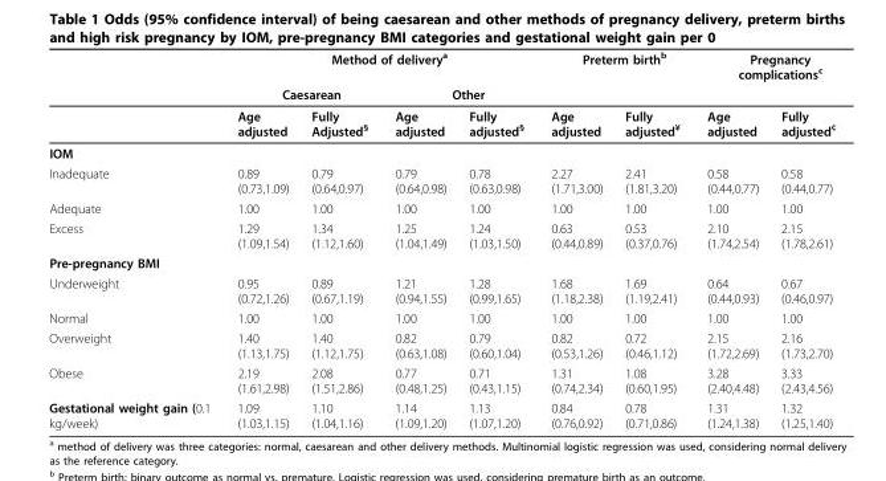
<table><thead><tr><td rowspan="3"></td><td colspan="4">Method of delivery<sup>a</sup></td><td colspan="2">Preterm birth<sup>b</sup></td><td colspan="2">Pregnancy complications<sup>c</sup></td></tr><tr><td colspan="2">Caesarean</td><td colspan="2">Other</td><td rowspan="2">Age adjusted</td><td rowspan="2">Fully adjusted<sup>¥</sup></td><td rowspan="2">Age adjusted</td><td rowspan="2">Fully adjusted<sup>¢</sup></td></tr><tr><td>Age adjusted</td><td>Fully Adjusted<sup>§</sup></td><td>Age adjusted</td><td>Fully adjusted§</td></tr></thead><tbody><tr><td colspan="9">IOM</td></tr><tr><td>Inadequate</td><td>0.89 (0.73,1.09)</td><td>0.79 (0.64,0.97)</td><td>0.79 (0.64,0.98)</td><td>0.78 (0.63,0.98)</td><td>2.27 (1.71,3.00)</td><td>2.41 (1.81,3.20)</td><td>0.58 (0.44,0.77)</td><td>0.58 (0.44,0.77)</td></tr><tr><td>Adequate</td><td>1.00</td><td>1.00</td><td>1.00</td><td>1.00</td><td>1.00</td><td>1.00</td><td>1.00</td><td>1.00</td></tr><tr><td>Excess</td><td>1.29 (1.09,1.54)</td><td>1.34 (1.12,1.60)</td><td>1.25 (1.04,1.49)</td><td>1.24 (1.03,1.50)</td><td>0.63 (0.44,0.89)</td><td>0.53 (0.37,0.76)</td><td>2.10 (1.74,2.54)</td><td>2.15 (1.78,2.61)</td></tr><tr><td colspan="9">Pre-pregnancy BMI</td></tr><tr><td>Underweight</td><td>0.95 (0.72,1.26)</td><td>0.89 (0.67,1.19)</td><td>1.21 (0.94,1.55)</td><td>1.28 (0.99,1.65)</td><td>1.68 (1.18,2.38)</td><td>1.69 (1.19,2.41)</td><td>0.64 (0.44,0.93)</td><td>0.67 (0.46,0.97)</td></tr><tr><td>Normal</td><td>1.00</td><td>1.00</td><td>1.00</td><td>1.00</td><td>1.00</td><td>1.00</td><td>1.00</td><td>1.00</td></tr><tr><td>Overweight</td><td>1.40 (1.13,1.75)</td><td>1.40 (1.12,1.75)</td><td>0.82 (0.63,1.08)</td><td>0.79 (0.60,1.04)</td><td>0.82 (0.53,1.26)</td><td>0.72 (0.46,1.12)</td><td>2.15 (1.72,2.69)</td><td>2.16 (1.73,2.70)</td></tr><tr><td>Obese</td><td>2.19 (1.61,2.98)</td><td>2.08 (1.51,2.86)</td><td>0.77 (0.48,1.25)</td><td>0.71 (0.43,1.15)</td><td>1.31 (0.74,2.34)</td><td>1.08 (0.60,1.95)</td><td>3.28 (2.40,4.48)</td><td>3.33 (2.43,4.56)</td></tr><tr><td>Gestational weight gain (0.1 kg/week)</td><td>1.09 (1.03,1.15)</td><td>1.10 (1.04,1.16)</td><td>1.14 (1.09,1.20)</td><td>1.13 (1.07,1.20)</td><td>0.84 (0.76,0.92)</td><td>0.78 (0.71,0.86)</td><td>1.31 (1.24,1.38)</td><td>1.32 (1.25,1.40)</td></tr></tbody></table>